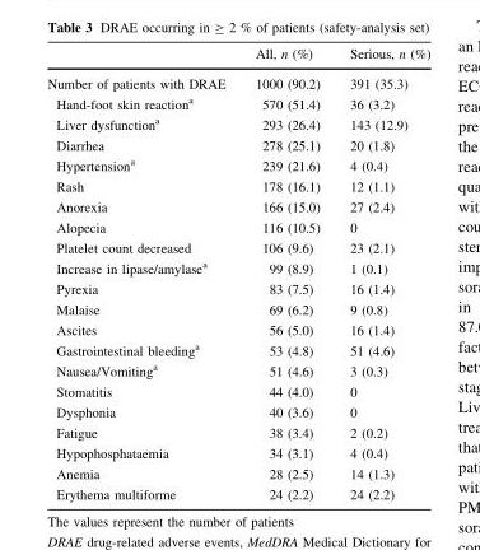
<table><thead><tr><td></td><td>All, n (%)</td><td>Serious, n (%)</td></tr></thead><tbody><tr><td>Number of patients with DRAE</td><td>1000 (90.2)</td><td>391 (35.3)</td></tr><tr><td>Hand-foot skin reaction<sup>a</sup></td><td>570 (51.4)</td><td>36 (3.2)</td></tr><tr><td>Liver dysfunction<sup>a</sup></td><td>293 (26.4)</td><td>143 (12.9)</td></tr><tr><td>Diarrhea</td><td>278 (25.1)</td><td>20 (1.8)</td></tr><tr><td>Hypertension<sup>a</sup></td><td>239 (21.6)</td><td>4 (0.4)</td></tr><tr><td>Rash</td><td>178 (16.1)</td><td>12 (1.1)</td></tr><tr><td>Anorexia</td><td>166 (15.0)</td><td>27 (2.4)</td></tr><tr><td>Alopecia</td><td>116 (10.5)</td><td>0</td></tr><tr><td>Platelet count decreased</td><td>106 (9.6)</td><td>23 (2.1)</td></tr><tr><td>Increase in lipase/amylase<sup>a</sup></td><td>99 (8.9)</td><td>1 (0.1)</td></tr><tr><td>Pyrexia</td><td>83 (7.5)</td><td>16 (1.4)</td></tr><tr><td>Malaise</td><td>69 (6.2)</td><td>9 (0.8)</td></tr><tr><td>Ascites</td><td>56 (5.0)</td><td>16 (1.4)</td></tr><tr><td>Gastrointestinal bleeding<sup>a</sup></td><td>53 (4.8)</td><td>51 (4.6)</td></tr><tr><td>Nausea/Vomiting<sup>a</sup></td><td>51 (4.6)</td><td>3 (0.3)</td></tr><tr><td>Stomatitis</td><td>44 (4.0)</td><td>0</td></tr><tr><td>Dysphonia</td><td>40 (3.6)</td><td>0</td></tr><tr><td>Fatigue</td><td>38 (3.4)</td><td>2 (0.2)</td></tr><tr><td>Hypophosphataemia</td><td>34 (3.1)</td><td>4 (0.4)</td></tr><tr><td>Anemia</td><td>28 (2.5)</td><td>14 (1.3)</td></tr><tr><td>Erythema multiforme</td><td>24 (2.2)</td><td>24 (2.2)</td></tr></tbody></table>